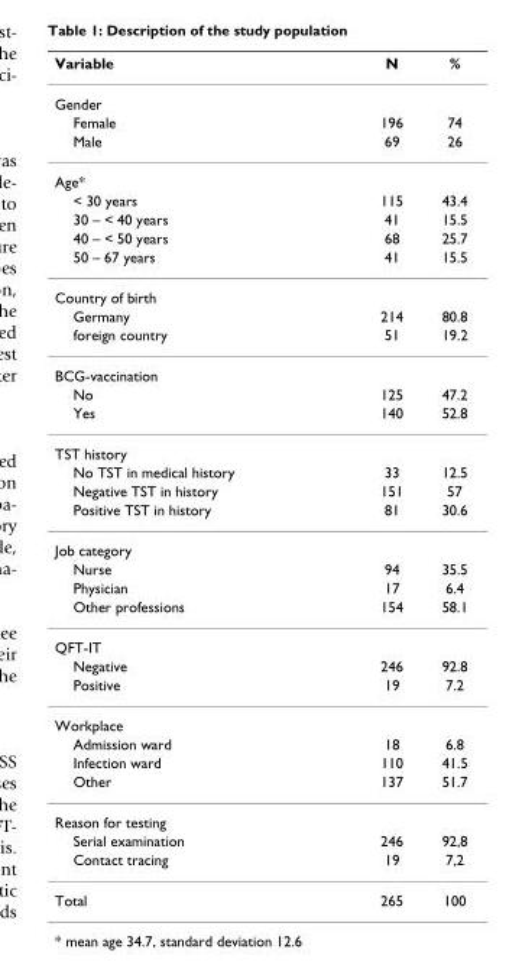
<table><thead><tr><td>Variable</td><td>N</td><td>%</td></tr></thead><tbody><tr><td colspan="3">Gender</td></tr><tr><td>Female</td><td>196</td><td>74</td></tr><tr><td>Male</td><td>69</td><td>26</td></tr><tr><td colspan="3">Age*</td></tr><tr><td>&lt; 30 years</td><td>115</td><td>43.4</td></tr><tr><td>30 – &lt; 40 years</td><td>41</td><td>15.5</td></tr><tr><td>40 – &lt; 50 years</td><td>68</td><td>25.7</td></tr><tr><td>50 – 67 years</td><td>41</td><td>15.5</td></tr><tr><td colspan="3">Country of birth</td></tr><tr><td>Germany</td><td>214</td><td>80.8</td></tr><tr><td>foreign country</td><td>51</td><td>19.2</td></tr><tr><td colspan="3">BCG-vaccination</td></tr><tr><td>No</td><td>125</td><td>47.2</td></tr><tr><td>Yes</td><td>140</td><td>52.8</td></tr><tr><td colspan="3">TST history</td></tr><tr><td>No TST in medical history</td><td>33</td><td>12.5</td></tr><tr><td>Negative TST in history</td><td>151</td><td>57</td></tr><tr><td>Positive TST in history</td><td>81</td><td>30.6</td></tr><tr><td colspan="3">Job category</td></tr><tr><td>Nurse</td><td>94</td><td>35.5</td></tr><tr><td>Physician</td><td>17</td><td>6.4</td></tr><tr><td>Other professions</td><td>154</td><td>58.1</td></tr><tr><td colspan="3">QFT-IT</td></tr><tr><td>Negative</td><td>246</td><td>92.8</td></tr><tr><td>Positive</td><td>19</td><td>7.2</td></tr><tr><td colspan="3">Workplace</td></tr><tr><td>Admission ward</td><td>18</td><td>6.8</td></tr><tr><td>Infection ward</td><td>110</td><td>41.5</td></tr><tr><td>Other</td><td>137</td><td>51.7</td></tr><tr><td colspan="3">Reason for testing</td></tr><tr><td>Serial examination</td><td>246</td><td>92,8</td></tr><tr><td>Contact tracing</td><td>19</td><td>7,2</td></tr><tr><td>Total</td><td>265</td><td>100</td></tr></tbody></table>